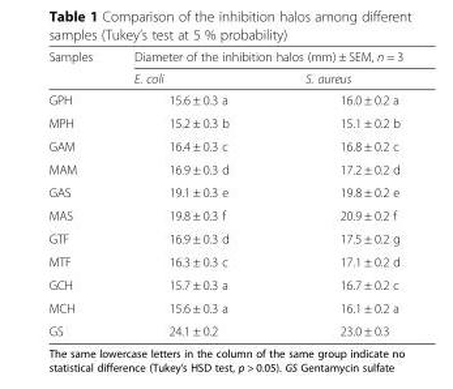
<table><thead><tr><td rowspan="2">Samples</td><td colspan="2">Diameter of the inhibition halos (mm) ± SEM, n = 3</td></tr><tr><td>E. coli</td><td>S. aureus</td></tr></thead><tbody><tr><td>GPH</td><td>15.6 ± 0.3 a</td><td>16.0 ± 0.2 a</td></tr><tr><td>MPH</td><td>15.2 ± 0.3 b</td><td>15.1 ± 0.2 b</td></tr><tr><td>GAM</td><td>16.4 ± 0.3 c</td><td>16.8 ± 0.2 c</td></tr><tr><td>MAM</td><td>16.9 ± 0.3 d</td><td>17.2 ± 0.2 d</td></tr><tr><td>GAS</td><td>19.1 ± 0.3 e</td><td>19.8 ± 0.2 e</td></tr><tr><td>MAS</td><td>19.8 ± 0.3 f</td><td>20.9 ± 0.2 f</td></tr><tr><td>GTF</td><td>16.9 ± 0.3 d</td><td>17.5 ± 0.2 g</td></tr><tr><td>MTF</td><td>16.3 ± 0.3 c</td><td>17.1 ± 0.2 d</td></tr><tr><td>GCH</td><td>15.7 ± 0.3 a</td><td>16.7 ± 0.2 c</td></tr><tr><td>MCH</td><td>15.6 ± 0.3 a</td><td>16.1 ± 0.2 a</td></tr><tr><td>GS</td><td>24.1 ± 0.2</td><td>23.0 ± 0.3</td></tr></tbody></table>